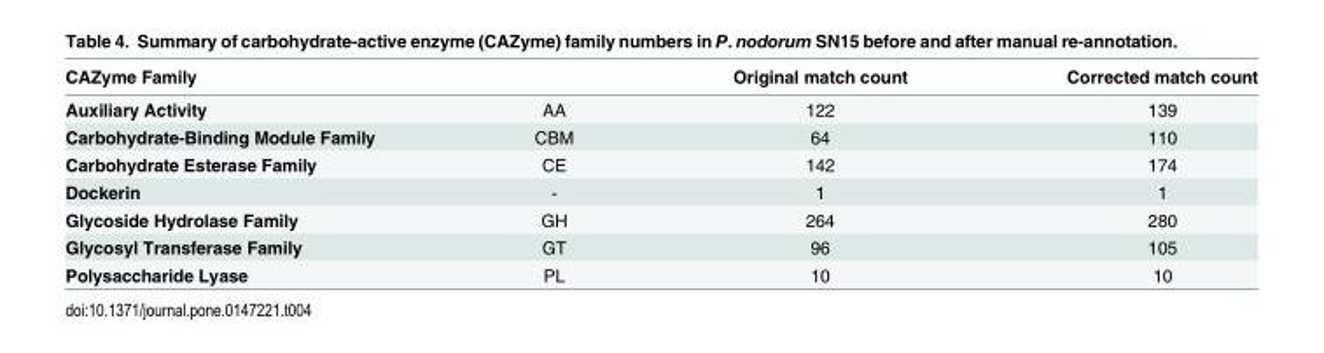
<table><thead><tr><td>CAZyme Family</td><td></td><td>Original match count</td><td>Corrected match count</td></tr></thead><tbody><tr><td>Auxiliary Activity</td><td>AA</td><td>122</td><td>139</td></tr><tr><td>Carbohydrate-Binding Module Family</td><td>CBM</td><td>64</td><td>110</td></tr><tr><td>Carbohydrate Esterase Family</td><td>CE</td><td>142</td><td>174</td></tr><tr><td>Dockerin</td><td>-</td><td>1</td><td>1</td></tr><tr><td>Glycoside Hydrolase Family</td><td>GH</td><td>264</td><td>280</td></tr><tr><td>Glycosyl Transferase Family</td><td>GT</td><td>96</td><td>105</td></tr><tr><td>Polysaccharide Lyase</td><td>PL</td><td>10</td><td>10</td></tr></tbody></table>